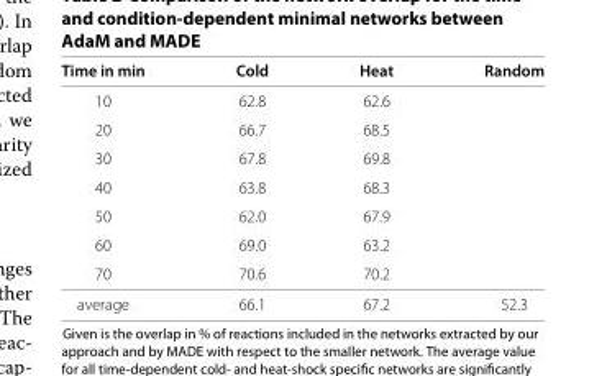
<table><thead><tr><td>Time in min</td><td>Cold</td><td>Heat</td><td>Random</td></tr></thead><tbody><tr><td>10</td><td>62.8</td><td>62.6</td><td></td></tr><tr><td>20</td><td>66.7</td><td>68.5</td><td></td></tr><tr><td>30</td><td>67.8</td><td>69.8</td><td></td></tr><tr><td>40</td><td>63.8</td><td>68.3</td><td></td></tr><tr><td>50</td><td>62.0</td><td>67.9</td><td></td></tr><tr><td>60</td><td>69.0</td><td>63.2</td><td></td></tr><tr><td>70</td><td>70.6</td><td>70.2</td><td></td></tr><tr><td>average</td><td>66.1</td><td>67.2</td><td>52.3</td></tr></tbody></table>